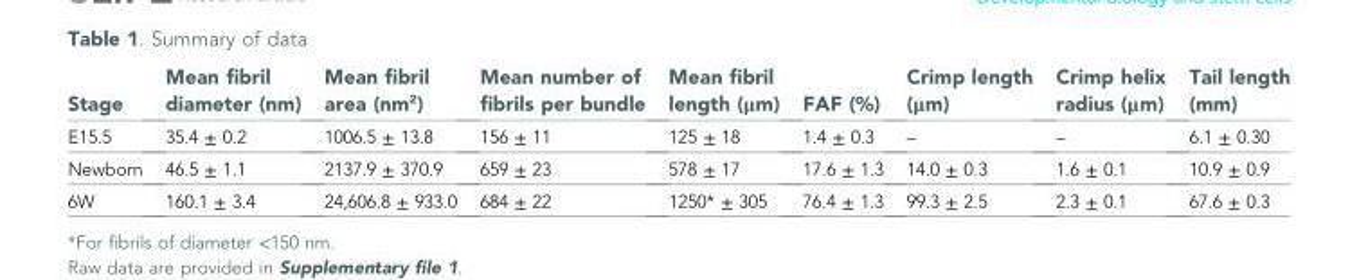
<table><thead><tr><td>Stage</td><td>Mean fibril diameter (nm)</td><td>Mean fibril area (nm<sup>2</sup>)</td><td>Mean number of fibrils per bundle</td><td>Mean fibril length (μm)</td><td>FAF (%)</td><td>Crimp length (μm)</td><td>Crimp helix radius (μm)</td><td>Tail length (mm)</td></tr></thead><tbody><tr><td>E15.5</td><td>35.4 ± 0.2</td><td>1006.5 ± 13.8</td><td>156 ± 11</td><td>125 ± 18</td><td>1.4 ± 0.3</td><td>–</td><td>–</td><td>6.1 ± 0.30</td></tr><tr><td>Newborn</td><td>46.5 ± 1.1</td><td>2137.9 ± 370.9</td><td>659 ± 23</td><td>578 ± 17</td><td>17.6 ± 1.3</td><td>14.0 ± 0.3</td><td>1.6 ± 0.1</td><td>10.9 ± 0.9</td></tr><tr><td>6W</td><td>160.1 ± 3.4</td><td>24,606.8 ± 933.0</td><td>684 ± 22</td><td>1250* ± 305</td><td>76.4 ± 1.3</td><td>99.3 ± 2.5</td><td>2.3 ± 0.1</td><td>67.6 ± 0.3</td></tr></tbody></table>